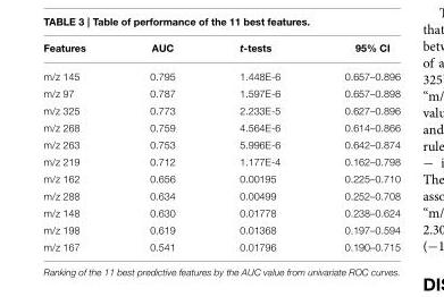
<table><thead><tr><td>Features</td><td>AUC</td><td>t-tests</td><td>95% CI</td></tr></thead><tbody><tr><td>m/z 145</td><td>0.795</td><td>1.448E-6</td><td>0.657–0.896</td></tr><tr><td>m/z 97</td><td>0.787</td><td>1.597E-6</td><td>0.657–0.898</td></tr><tr><td>m/z 325</td><td>0.773</td><td>2.233E-5</td><td>0.627–0.896</td></tr><tr><td>m/z 268</td><td>0.759</td><td>4.564E-6</td><td>0.614–0.866</td></tr><tr><td>m/z 263</td><td>0.753</td><td>5.996E-6</td><td>0.642–0.874</td></tr><tr><td>m/z 219</td><td>0.712</td><td>1.177E-4</td><td>0.162–0.798</td></tr><tr><td>m/z 162</td><td>0.656</td><td>0.00195</td><td>0.225–0.710</td></tr><tr><td>m/z 288</td><td>0.634</td><td>0.00499</td><td>0.252–0.708</td></tr><tr><td>m/z 148</td><td>0.630</td><td>0.01778</td><td>0.238–0.624</td></tr><tr><td>m/z 198</td><td>0.619</td><td>0.01368</td><td>0.197–0.594</td></tr><tr><td>m/z 167</td><td>0.541</td><td>0.01796</td><td>0.190–0.715</td></tr></tbody></table>